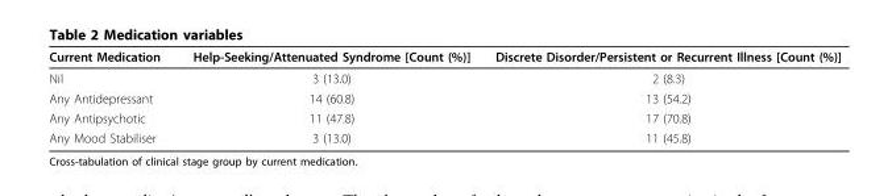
<table><thead><tr><td>Current Medication</td><td>Help-Seeking/Attenuated Syndrome [Count (%)]</td><td>Discrete Disorder/Persistent or Recurrent Illness [Count (%)]</td></tr></thead><tbody><tr><td>Nil</td><td>3 (13.0)</td><td>2 (8.3)</td></tr><tr><td>Any Antidepressant</td><td>14 (60.8)</td><td>13 (54.2)</td></tr><tr><td>Any Antipsychotic</td><td>11 (47.8)</td><td>17 (70.8)</td></tr><tr><td>Any Mood Stabiliser</td><td>3 (13.0)</td><td>11 (45.8)</td></tr></tbody></table>